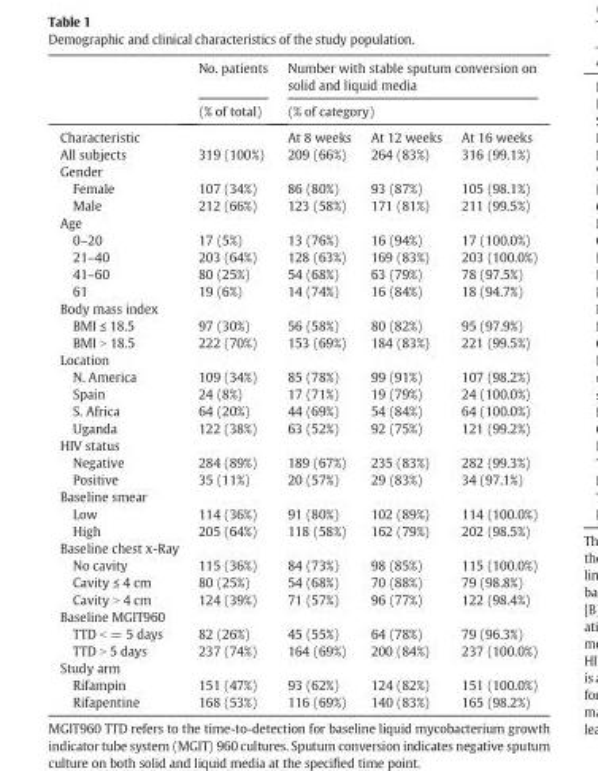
<table><thead><tr><td rowspan="3">Characteristic</td><td rowspan="3">No. patients (% of total)</td><td rowspan="2" colspan="3">Number with stable sputum conversion on solid and liquid media (% of category)</td></tr><tr></tr><tr><td>At 8 weeks</td><td>At 12 weeks</td><td>At 16 weeks</td></tr></thead><tbody><tr><td>All subjects</td><td>319 (100%)</td><td>209 (66%)</td><td>264 (83%)</td><td>316 (99.1%)</td></tr><tr><td colspan="5">Gender</td></tr><tr><td>Female</td><td>107 (34%)</td><td>86 (80%)</td><td>93 (87%)</td><td>105 (98.1%)</td></tr><tr><td>Male</td><td>212 (66%)</td><td>123 (58%)</td><td>171 (81%)</td><td>211 (99.5%)</td></tr><tr><td colspan="5">Age</td></tr><tr><td>0–20</td><td>17 (5%)</td><td>13 (76%)</td><td>16 (94%)</td><td>17 (100.0%)</td></tr><tr><td>21–40</td><td>203 (64%)</td><td>128 (63%)</td><td>169 (83%)</td><td>203 (100.0%)</td></tr><tr><td>41–60</td><td>80 (25%)</td><td>54 (68%)</td><td>63 (79%)</td><td>78 (97.5%)</td></tr><tr><td>61</td><td>19 (6%)</td><td>14 (74%)</td><td>16 (84%)</td><td>18 (94.7%)</td></tr><tr><td colspan="5">Body mass index</td></tr><tr><td>BMI ≤ 18.5</td><td>97 (30%)</td><td>56 (58%)</td><td>80 (82%)</td><td>95 (97.9%)</td></tr><tr><td>BMI &gt; 18.5</td><td>222 (70%)</td><td>153 (69%)</td><td>184 (83%)</td><td>221 (99.5%)</td></tr><tr><td colspan="5">Location</td></tr><tr><td>N. America</td><td>109 (34%)</td><td>85 (78%)</td><td>99 (91%)</td><td>107 (98.2%)</td></tr><tr><td>Spain</td><td>24 (8%)</td><td>17 (71%)</td><td>19 (79%)</td><td>24 (100.0%)</td></tr><tr><td>S. Africa</td><td>64 (20%)</td><td>44 (69%)</td><td>54 (84%)</td><td>64 (100.0%)</td></tr><tr><td>Uganda</td><td>122 (38%)</td><td>63 (52%)</td><td>92 (75%)</td><td>121 (99.2%)</td></tr><tr><td colspan="5">HIV status</td></tr><tr><td>Negative</td><td>284 (89%)</td><td>189 (67%)</td><td>235 (83%)</td><td>282 (99.3%)</td></tr><tr><td>Positive</td><td>35 (11%)</td><td>20 (57%)</td><td>29 (83%)</td><td>34 (97.1%)</td></tr><tr><td colspan="5">Baseline smear</td></tr><tr><td>Low</td><td>114 (36%)</td><td>91 (80%)</td><td>102 (89%)</td><td>114 (100.0%)</td></tr><tr><td>High</td><td>205 (64%)</td><td>118 (58%)</td><td>162 (79%)</td><td>202 (98.5%)</td></tr><tr><td colspan="5">Baseline chest x-Ray</td></tr><tr><td>No cavity</td><td>115 (36%)</td><td>84 (73%)</td><td>98 (85%)</td><td>115 (100.0%)</td></tr><tr><td>Cavity ≤ 4 cm</td><td>80 (25%)</td><td>54 (68%)</td><td>70 (88%)</td><td>79 (98.8%)</td></tr><tr><td>Cavity &gt; 4 cm</td><td>124 (39%)</td><td>71 (57%)</td><td>96 (77%)</td><td>122 (98.4%)</td></tr><tr><td colspan="5">Baseline MGIT960</td></tr><tr><td>TTD &lt; = 5 days</td><td>82 (26%)</td><td>45 (55%)</td><td>64 (78%)</td><td>79 (96.3%)</td></tr><tr><td>TTD &gt; 5 days</td><td>237 (74%)</td><td>164 (69%)</td><td>200 (84%)</td><td>237 (100.0%)</td></tr><tr><td colspan="5">Study arm</td></tr><tr><td>Rifampin</td><td>151 (47%)</td><td>93 (62%)</td><td>124 (82%)</td><td>151 (100.0%)</td></tr><tr><td>Rifapentine</td><td>168 (53%)</td><td>116 (69%)</td><td>140 (83%)</td><td>165 (98.2%)</td></tr></tbody></table>